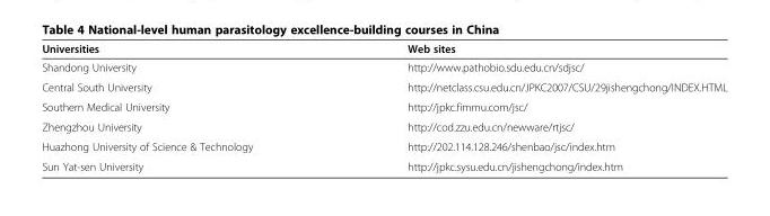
<table><thead><tr><td>Universities</td><td>Web sites</td></tr></thead><tbody><tr><td>Shandong University</td><td>http://www.pathobio.sdu.edu.cn/sdjsc/</td></tr><tr><td>Central South University</td><td>http://netclass.csu.edu.cn/JPKC2007/CSU/29jishengchong/INDEX.HTML</td></tr><tr><td>Southern Medical University</td><td>http://jpkc.fimmu.com/jsc/</td></tr><tr><td>Zhengzhou University</td><td>http://cod.zzu.edu.cn/newware/rtjsc/</td></tr><tr><td>Huazhong University of Science &amp; Technology</td><td>http://202.114.128.246/shenbao/jsc/index.htm</td></tr><tr><td>Sun Yat-sen University</td><td>http://jpkc.sysu.edu.cn/jishengchong/index.htm</td></tr></tbody></table>